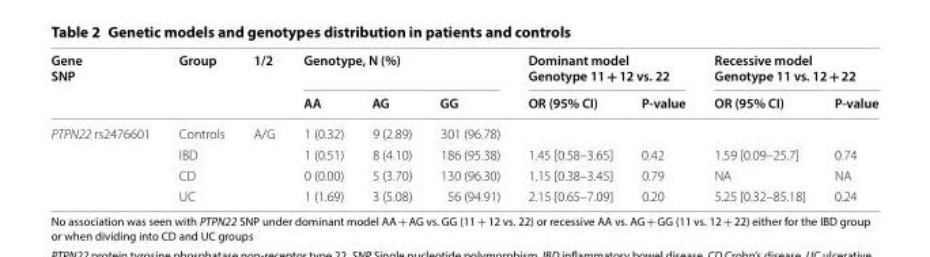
<table><thead><tr><td rowspan="2">Gene SNP</td><td rowspan="2">Group</td><td rowspan="2">1/2</td><td colspan="3">Genotype, N (%)</td><td colspan="2">Dominant model Genotype 11 + 12 vs. 22</td><td colspan="2">Recessive model Genotype 11 vs. 12 + 22</td></tr><tr><td>AA</td><td>AG</td><td>GG</td><td>OR (95% CI)</td><td>P-value</td><td>OR (95% CI)</td><td>P-value</td></tr></thead><tbody><tr><td rowspan="4">PTPN22 rs2476601</td><td>Controls</td><td rowspan="4">A/G</td><td>1 (0.32)</td><td>9 (2.89)</td><td>301 (96.78)</td><td colspan="4"></td></tr><tr><td>IBD</td><td>1 (0.51)</td><td>8 (4.10)</td><td>186 (95.38)</td><td>1.45 [0.58–3.65]</td><td>0.42</td><td>1.59 [0.09–25.7]</td><td>0.74</td></tr><tr><td>CD</td><td>0 (0.00)</td><td>5 (3.70)</td><td>130 (96.30)</td><td>1.15 [0.38–3.45]</td><td>0.79</td><td>NA</td><td>NA</td></tr><tr><td>UC</td><td>1 (1.69)</td><td>3 (5.08)</td><td>56 (94.91)</td><td>2.15 [0.65–7.09]</td><td>0.20</td><td>5.25 [0.32–85.18]</td><td>0.24</td></tr></tbody></table>